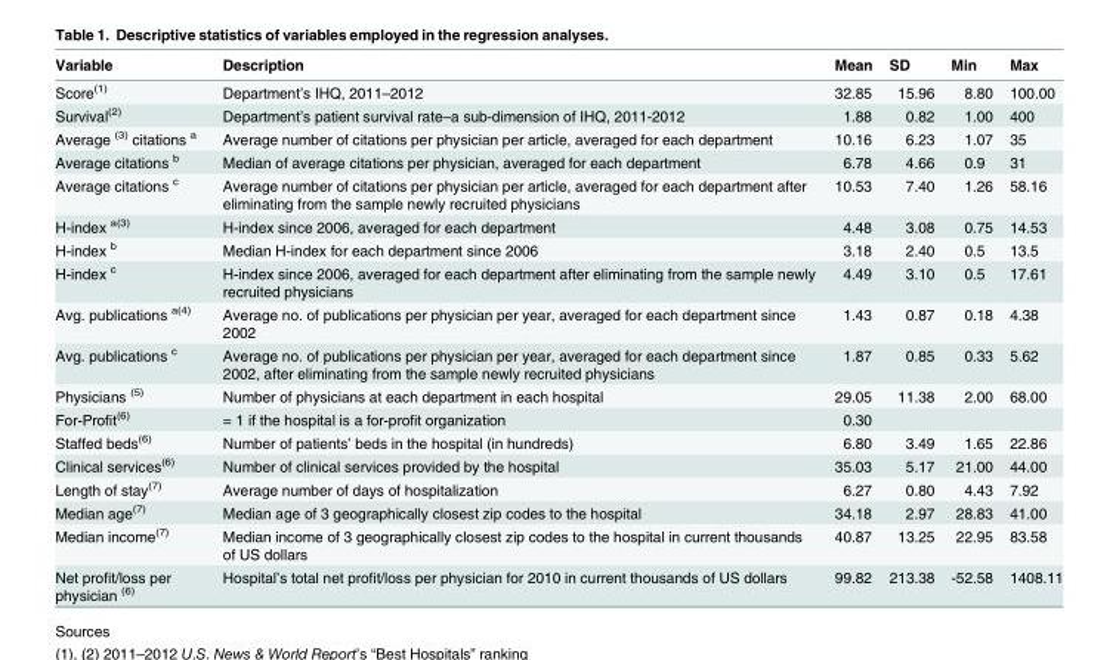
<table><thead><tr><td>Variable</td><td>Description</td><td>Mean</td><td>SD</td><td>Min</td><td>Max</td></tr></thead><tbody><tr><td>Score<sup>(1)</sup></td><td>Department’s IHQ, 2011–2012</td><td>32.85</td><td>15.96</td><td>8.80</td><td>100.00</td></tr><tr><td>Survival<sup>(2)</sup></td><td>Department’s patient survival rate–a sub-dimension of IHQ, 2011-2012</td><td>1.88</td><td>0.82</td><td>1.00</td><td>400</td></tr><tr><td>Average <sup>(3)</sup> citations <sup>a</sup></td><td>Average number of citations per physician per article, averaged for each department</td><td>10.16</td><td>6.23</td><td>1.07</td><td>35</td></tr><tr><td>Average citations <sup>b</sup></td><td>Median of average citations per physician, averaged for each department</td><td>6.78</td><td>4.66</td><td>0.9</td><td>31</td></tr><tr><td>Average citations <sup>c</sup></td><td>Average number of citations per physician per article, averaged for each department after eliminating from the sample newly recruited physicians</td><td>10.53</td><td>7.40</td><td>1.26</td><td>58.16</td></tr><tr><td>H-index <sup>a(3)</sup></td><td>H-index since 2006, averaged for each department</td><td>4.48</td><td>3.08</td><td>0.75</td><td>14.53</td></tr><tr><td>H-index <sup>b</sup></td><td>Median H-index for each department since 2006</td><td>3.18</td><td>2.40</td><td>0.5</td><td>13.5</td></tr><tr><td>H-index <sup>c</sup></td><td>H-index since 2006, averaged for each department after eliminating from the sample newly recruited physicians</td><td>4.49</td><td>3.10</td><td>0.5</td><td>17.61</td></tr><tr><td>Avg. publications <sup>a(4)</sup></td><td>Average no. of publications per physician per year, averaged for each department since 2002</td><td>1.43</td><td>0.87</td><td>0.18</td><td>4.38</td></tr><tr><td>Avg. publications <sup>c</sup></td><td>Average no. of publications per physician per year, averaged for each department since 2002, after eliminating from the sample newly recruited physicians</td><td>1.87</td><td>0.85</td><td>0.33</td><td>5.62</td></tr><tr><td>Physicians <sup>(5)</sup></td><td>Number of physicians at each department in each hospital</td><td>29.05</td><td>11.38</td><td>2.00</td><td>68.00</td></tr><tr><td>For-Profit<sup>(6)</sup></td><td>= 1 if the hospital is a for-profit organization</td><td>0.30</td><td></td><td></td><td></td></tr><tr><td>Staffed beds<sup>(6)</sup></td><td>Number of patients’ beds in the hospital (in hundreds)</td><td>6.80</td><td>3.49</td><td>1.65</td><td>22.86</td></tr><tr><td>Clinical services<sup>(6)</sup></td><td>Number of clinical services provided by the hospital</td><td>35.03</td><td>5.17</td><td>21.00</td><td>44.00</td></tr><tr><td>Length of stay<sup>(7)</sup></td><td>Average number of days of hospitalization</td><td>6.27</td><td>0.80</td><td>4.43</td><td>7.92</td></tr><tr><td>Median age<sup>(7)</sup></td><td>Median age of 3 geographically closest zip codes to the hospital</td><td>34.18</td><td>2.97</td><td>28.83</td><td>41.00</td></tr><tr><td>Median income<sup>(7)</sup></td><td>Median income of 3 geographically closest zip codes to the hospital in current thousands of US dollars</td><td>40.87</td><td>13.25</td><td>22.95</td><td>83.58</td></tr><tr><td>Net profit/loss per physician <sup>(6)</sup></td><td>Hospital’s total net profit/loss per physician for 2010 in current thousands of US dollars</td><td>99.82</td><td>213.38</td><td>-52.58</td><td>1408.11</td></tr></tbody></table>